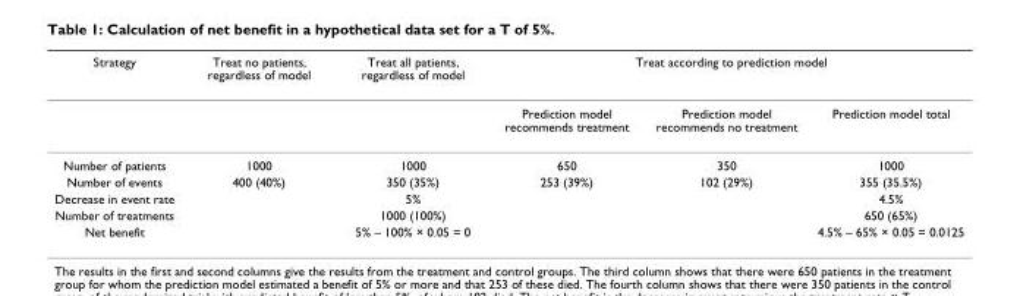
<table><thead><tr><td rowspan="2">Strategy</td><td rowspan="2">Treat no patients, regardless of model</td><td rowspan="2">Treat all patients, regardless of model</td><td colspan="3">Treat according to prediction model</td></tr><tr><td>Prediction model recommends treatment</td><td>Prediction model recommends no treatment</td><td>Prediction model total</td></tr></thead><tbody><tr><td>Number of patients</td><td>1000</td><td>1000</td><td>650</td><td>350</td><td>1000</td></tr><tr><td>Number of events</td><td>400 (40%)</td><td>350 (35%)</td><td>253 (39%)</td><td>102 (29%)</td><td>355 (35.5%)</td></tr><tr><td>Decrease in event rate</td><td></td><td>5%</td><td></td><td></td><td>4.5%</td></tr><tr><td>Number of treatments</td><td></td><td>1000 (100%)</td><td></td><td></td><td>650 (65%)</td></tr><tr><td>Net benefit</td><td></td><td>5% – 100% × 0.05 = 0</td><td></td><td></td><td>4.5% – 65% × 0.05 = 0.0125</td></tr></tbody></table>